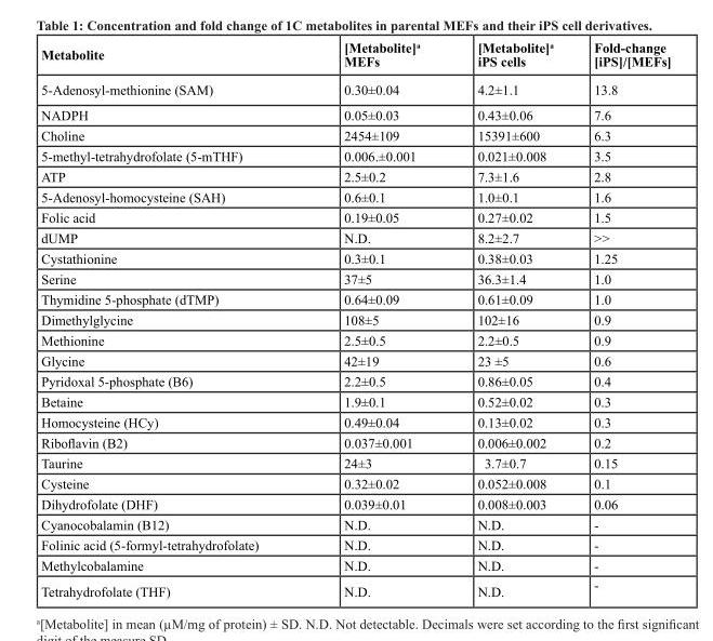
<table><thead><tr><td>Metabolite</td><td>[Metabolite]<sup>a</sup> MEFs</td><td>[Metabolite]<sup>a</sup> iPS cells</td><td>Fold-change [iPS]/[MEFs]</td></tr></thead><tbody><tr><td>5-Adenosyl-methionine (SAM)</td><td>0.30±0.04</td><td>4.2±1.1</td><td>13.8</td></tr><tr><td>NADPH</td><td>0.05±0.03</td><td>0.43±0.06</td><td>7.6</td></tr><tr><td>Choline</td><td>2454±109</td><td>15391±600</td><td>6.3</td></tr><tr><td>5-methyl-tetrahydrofolate (5-mTHF)</td><td>0.006.±0.001</td><td>0.021±0.008</td><td>3.5</td></tr><tr><td>ATP</td><td>2.5±0.2</td><td>7.3±1.6</td><td>2.8</td></tr><tr><td>5-Adenosyl-homocysteine (SAH)</td><td>0.6±0.1</td><td>1.0±0.1</td><td>1.6</td></tr><tr><td>Folic acid</td><td>0.19±0.05</td><td>0.27±0.02</td><td>1.5</td></tr><tr><td>dUMP</td><td>N.D.</td><td>8.2±2.7</td><td>&gt;&gt;</td></tr><tr><td>Cystathionine</td><td>0.3±0.1</td><td>0.38±0.03</td><td>1.25</td></tr><tr><td>Serine</td><td>37±5</td><td>36.3±1.4</td><td>1.0</td></tr><tr><td>Thymidine 5-phosphate (dTMP)</td><td>0.64±0.09</td><td>0.61±0.09</td><td>1.0</td></tr><tr><td>Dimethylglycine</td><td>108±5</td><td>102±16</td><td>0.9</td></tr><tr><td>Methionine</td><td>2.5±0.5</td><td>2.2±0.5</td><td>0.9</td></tr><tr><td>Glycine</td><td>42±19</td><td>23 ±5</td><td>0.6</td></tr><tr><td>Pyridoxal 5-phosphate (B6)</td><td>2.2±0.5</td><td>0.86±0.05</td><td>0.4</td></tr><tr><td>Betaine</td><td>1.9±0.1</td><td>0.52±0.02</td><td>0.3</td></tr><tr><td>Homocysteine (HCy)</td><td>0.49±0.04</td><td>0.13±0.02</td><td>0.3</td></tr><tr><td>Riboflavin (B2)</td><td>0.037±0.001</td><td>0.006±0.002</td><td>0.2</td></tr><tr><td>Taurine</td><td>24±3</td><td>3.7±0.7</td><td>0.15</td></tr><tr><td>Cysteine</td><td>0.32±0.02</td><td>0.052±0.008</td><td>0.1</td></tr><tr><td>Dihydrofolate (DHF)</td><td>0.039±0.01</td><td>0.008±0.003</td><td>0.06</td></tr><tr><td>Cyanocobalamin (B12)</td><td>N.D.</td><td>N.D.</td><td>-</td></tr><tr><td>Folinic acid (5-formyl-tetrahydrofolate)</td><td>N.D.</td><td>N.D.</td><td>-</td></tr><tr><td>Methylcobalamine</td><td>N.D.</td><td>N.D.</td><td>-</td></tr><tr><td>Tetrahydrofolate (THF)</td><td>N.D.</td><td>N.D.</td><td>-</td></tr></tbody></table>